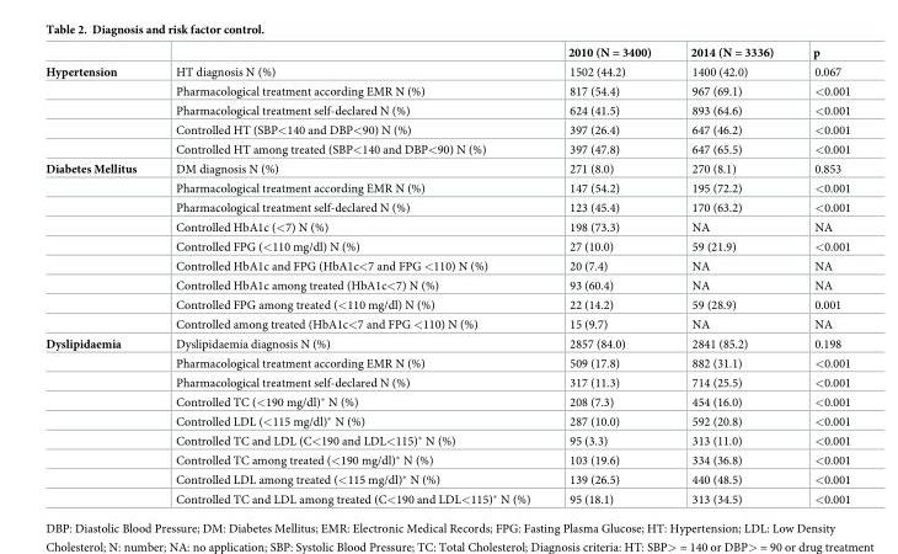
<table><thead><tr><td></td><td></td><td>2010 (N = 3400)</td><td>2014 (N = 3336)</td><td>p</td></tr></thead><tbody><tr><td rowspan="5">Hypertension</td><td>HT diagnosis N (%)</td><td>1502 (44.2)</td><td>1400 (42.0)</td><td>0.067</td></tr><tr><td>Pharmacological treatment according EMR N (%)</td><td>817 (54.4)</td><td>967 (69.1)</td><td>&lt;0.001</td></tr><tr><td>Pharmacological treatment self-declared N (%)</td><td>624 (41.5)</td><td>893 (64.6)</td><td>&lt;0.001</td></tr><tr><td>Controlled HT (SBP&lt;140 and DBP&lt;90) N (%)</td><td>397 (26.4)</td><td>647 (46.2)</td><td>&lt;0.001</td></tr><tr><td>Controlled HT among treated (SBP&lt;140 and DBP&lt;90) N (%)</td><td>397 (47.8)</td><td>647 (65.5)</td><td>&lt;0.001</td></tr><tr><td rowspan="9">Diabetes Mellitus</td><td>DM diagnosis N (%)</td><td>271 (8.0)</td><td>270 (8.1)</td><td>0.853</td></tr><tr><td>Pharmacological treatment according EMR N (%)</td><td>147 (54.2)</td><td>195 (72.2)</td><td>&lt;0.001</td></tr><tr><td>Pharmacological treatment self-declared N (%)</td><td>123 (45.4)</td><td>170 (63.2)</td><td>&lt;0.001</td></tr><tr><td>Controlled HbA1c (&lt;7) N (%)</td><td>198 (73.3)</td><td>NA</td><td>NA</td></tr><tr><td>Controlled FPG (&lt;110 mg/dl) N (%)</td><td>27 (10.0)</td><td>59 (21.9)</td><td>&lt;0.001</td></tr><tr><td>Controlled HbA1c and FPG (HbA1c&lt;7 and FPG &lt;110) N (%)</td><td>20 (7.4)</td><td>NA</td><td>NA</td></tr><tr><td>Controlled HbA1c among treated (HbA1c&lt;7) N (%)</td><td>93 (60.4)</td><td>NA</td><td>NA</td></tr><tr><td>Controlled FPG among treated (&lt;110 mg/dl) N (%)</td><td>22 (14.2)</td><td>59 (28.9)</td><td>0.001</td></tr><tr><td>Controlled among treated (HbA1c&lt;7 and FPG &lt;110) N (%)</td><td>15 (9.7)</td><td>NA</td><td>NA</td></tr><tr><td rowspan="9">Dyslipidaemia</td><td>Dyslipidaemia diagnosis N (%)</td><td>2857 (84.0)</td><td>2841 (85.2)</td><td>0.198</td></tr><tr><td>Pharmacological treatment according EMR N (%)</td><td>509 (17.8)</td><td>882 (31.1)</td><td>&lt;0.001</td></tr><tr><td>Pharmacological treatment self-declared N (%)</td><td>317 (11.3)</td><td>714 (25.5)</td><td>&lt;0.001</td></tr><tr><td>Controlled TC (&lt;190 mg/dl)* N (%)</td><td>208 (7.3)</td><td>454 (16.0)</td><td>&lt;0.001</td></tr><tr><td>Controlled LDL (&lt;115 mg/dl)* N (%)</td><td>287 (10.0)</td><td>592 (20.8)</td><td>&lt;0.001</td></tr><tr><td>Controlled TC and LDL (C&lt;190 and LDL&lt;115)* N (%)</td><td>95 (3.3)</td><td>313 (11.0)</td><td>&lt;0.001</td></tr><tr><td>Controlled TC among treated (&lt;190 mg/dl)* N (%)</td><td>103 (19.6)</td><td>334 (36.8)</td><td>&lt;0.001</td></tr><tr><td>Controlled LDL among treated (&lt;115 mg/dl)* N (%)</td><td>139 (26.5)</td><td>440 (48.5)</td><td>&lt;0.001</td></tr><tr><td>Controlled TC and LDL among treated (C&lt;190 and LDL&lt;115)* N (%)</td><td>95 (18.1)</td><td>313 (34.5)</td><td>&lt;0.001</td></tr></tbody></table>